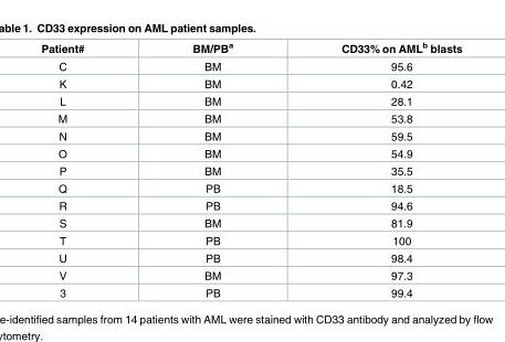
<table><thead><tr><td>Patient#</td><td>BM/PB<sup>a</sup></td><td>CD33% on AML<sup>b</sup> blasts</td></tr></thead><tbody><tr><td>C</td><td>BM</td><td>95.6</td></tr><tr><td>K</td><td>BM</td><td>0.42</td></tr><tr><td>L</td><td>BM</td><td>28.1</td></tr><tr><td>M</td><td>BM</td><td>53.8</td></tr><tr><td>N</td><td>BM</td><td>59.5</td></tr><tr><td>O</td><td>BM</td><td>54.9</td></tr><tr><td>P</td><td>BM</td><td>35.5</td></tr><tr><td>Q</td><td>PB</td><td>18.5</td></tr><tr><td>R</td><td>PB</td><td>94.6</td></tr><tr><td>S</td><td>BM</td><td>81.9</td></tr><tr><td>T</td><td>PB</td><td>100</td></tr><tr><td>U</td><td>PB</td><td>98.4</td></tr><tr><td>V</td><td>BM</td><td>97.3</td></tr><tr><td>3</td><td>PB</td><td>99.4</td></tr></tbody></table>